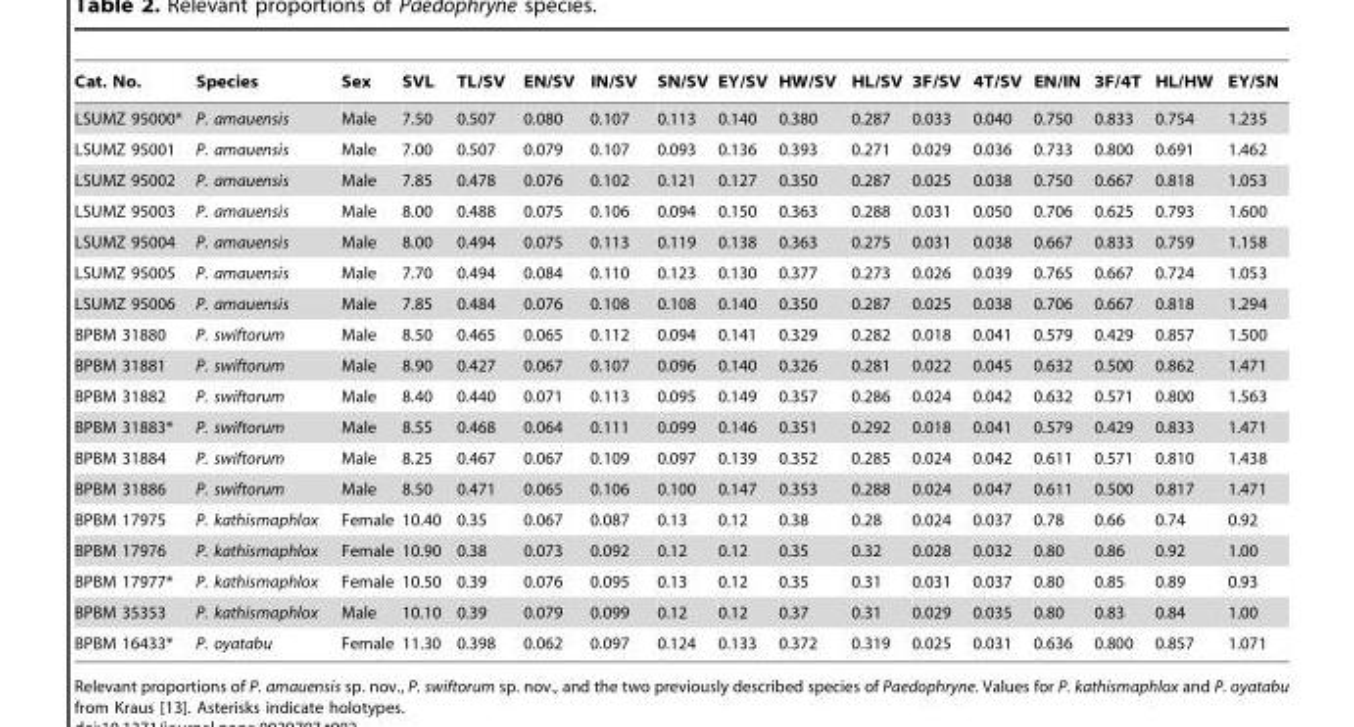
<table><thead><tr><td>Cat. No.</td><td>Species</td><td>Sex</td><td>SVL</td><td>TL/SV</td><td>EN/SV</td><td>IN/SV</td><td>SN/SV</td><td>EY/SV</td><td>HW/SV</td><td>HL/SV</td><td>3F/SV</td><td>4T/SV</td><td>EN/IN</td><td>3F/4T</td><td>HL/HW</td><td>EY/SN</td></tr></thead><tbody><tr><td>LSUMZ 95000*</td><td>P. amauensis</td><td>Male</td><td>7.50</td><td>0.507</td><td>0.080</td><td>0.107</td><td>0.113</td><td>0.140</td><td>0.380</td><td>0.287</td><td>0.033</td><td>0.040</td><td>0.750</td><td>0.833</td><td>0.754</td><td>1.235</td></tr><tr><td>LSUMZ 95001</td><td>P. amauensis</td><td>Male</td><td>7.00</td><td>0.507</td><td>0.079</td><td>0.107</td><td>0.093</td><td>0.136</td><td>0.393</td><td>0.271</td><td>0.029</td><td>0.036</td><td>0.733</td><td>0.800</td><td>0.691</td><td>1.462</td></tr><tr><td>LSUMZ 95002</td><td>P. amauensis</td><td>Male</td><td>7.85</td><td>0.478</td><td>0.076</td><td>0.102</td><td>0.121</td><td>0.127</td><td>0.350</td><td>0.287</td><td>0.025</td><td>0.038</td><td>0.750</td><td>0.667</td><td>0.818</td><td>1.053</td></tr><tr><td>LSUMZ 95003</td><td>P. amauensis</td><td>Male</td><td>8.00</td><td>0.488</td><td>0.075</td><td>0.106</td><td>0.094</td><td>0.150</td><td>0.363</td><td>0.288</td><td>0.031</td><td>0.050</td><td>0.706</td><td>0.625</td><td>0.793</td><td>1.600</td></tr><tr><td>LSUMZ 95004</td><td>P. amauensis</td><td>Male</td><td>8.00</td><td>0.494</td><td>0.075</td><td>0.113</td><td>0.119</td><td>0.138</td><td>0.363</td><td>0.275</td><td>0.031</td><td>0.038</td><td>0.667</td><td>0.833</td><td>0.759</td><td>1.158</td></tr><tr><td>LSUMZ 95005</td><td>P. amauensis</td><td>Male</td><td>7.70</td><td>0.494</td><td>0.084</td><td>0.110</td><td>0.123</td><td>0.130</td><td>0.377</td><td>0.273</td><td>0.026</td><td>0.039</td><td>0.765</td><td>0.667</td><td>0.724</td><td>1.053</td></tr><tr><td>LSUMZ 95006</td><td>P. amauensis</td><td>Male</td><td>7.85</td><td>0.484</td><td>0.076</td><td>0.108</td><td>0.108</td><td>0.140</td><td>0.350</td><td>0.287</td><td>0.025</td><td>0.038</td><td>0.706</td><td>0.667</td><td>0.818</td><td>1.294</td></tr><tr><td>BPBM 31880</td><td>P. swiftorum</td><td>Male</td><td>8.50</td><td>0.465</td><td>0.065</td><td>0.112</td><td>0.094</td><td>0.141</td><td>0.329</td><td>0.282</td><td>0.018</td><td>0.041</td><td>0.579</td><td>0.429</td><td>0.857</td><td>1.500</td></tr><tr><td>BPBM 31881</td><td>P. swiftorum</td><td>Male</td><td>8.90</td><td>0.427</td><td>0.067</td><td>0.107</td><td>0.096</td><td>0.140</td><td>0.326</td><td>0.281</td><td>0.022</td><td>0.045</td><td>0.632</td><td>0.500</td><td>0.862</td><td>1.471</td></tr><tr><td>BPBM 31882</td><td>P. swiftorum</td><td>Male</td><td>8.40</td><td>0.440</td><td>0.071</td><td>0.113</td><td>0.095</td><td>0.149</td><td>0.357</td><td>0.286</td><td>0.024</td><td>0.042</td><td>0.632</td><td>0.571</td><td>0.800</td><td>1.563</td></tr><tr><td>BPBM 31883*</td><td>P. swiftorum</td><td>Male</td><td>8.55</td><td>0.468</td><td>0.064</td><td>0.111</td><td>0.099</td><td>0.146</td><td>0.351</td><td>0.292</td><td>0.018</td><td>0.041</td><td>0.579</td><td>0.429</td><td>0.833</td><td>1.471</td></tr><tr><td>BPBM 31884</td><td>P. swiftorum</td><td>Male</td><td>8.25</td><td>0.467</td><td>0.067</td><td>0.109</td><td>0.097</td><td>0.139</td><td>0.352</td><td>0.285</td><td>0.024</td><td>0.042</td><td>0.611</td><td>0.571</td><td>0.810</td><td>1.438</td></tr><tr><td>BPBM 31886</td><td>P. swiftorum</td><td>Male</td><td>8.50</td><td>0.471</td><td>0.065</td><td>0.106</td><td>0.100</td><td>0.147</td><td>0.353</td><td>0.288</td><td>0.024</td><td>0.047</td><td>0.611</td><td>0.500</td><td>0.817</td><td>1.471</td></tr><tr><td>BPBM 17975</td><td>P. kathismaphlox</td><td>Female</td><td>10.40</td><td>0.35</td><td>0.067</td><td>0.087</td><td>0.13</td><td>0.12</td><td>0.38</td><td>0.28</td><td>0.024</td><td>0.037</td><td>0.78</td><td>0.66</td><td>0.74</td><td>0.92</td></tr><tr><td>BPBM 17976</td><td>P. kathismaphlox</td><td>Female</td><td>10.90</td><td>0.38</td><td>0.073</td><td>0.092</td><td>0.12</td><td>0.12</td><td>0.35</td><td>0.32</td><td>0.028</td><td>0.032</td><td>0.80</td><td>0.86</td><td>0.92</td><td>1.00</td></tr><tr><td>BPBM 17977*</td><td>P. kathismaphlox</td><td>Female</td><td>10.50</td><td>0.39</td><td>0.076</td><td>0.095</td><td>0.13</td><td>0.12</td><td>0.35</td><td>0.31</td><td>0.031</td><td>0.037</td><td>0.80</td><td>0.85</td><td>0.89</td><td>0.93</td></tr><tr><td>BPBM 35353</td><td>P. kathismaphlox</td><td>Male</td><td>10.10</td><td>0.39</td><td>0.079</td><td>0.099</td><td>0.12</td><td>0.12</td><td>0.37</td><td>0.31</td><td>0.029</td><td>0.035</td><td>0.80</td><td>0.83</td><td>0.84</td><td>1.00</td></tr><tr><td>BPBM 16433*</td><td>P. oyatabu</td><td>Female</td><td>11.30</td><td>0.398</td><td>0.062</td><td>0.097</td><td>0.124</td><td>0.133</td><td>0.372</td><td>0.319</td><td>0.025</td><td>0.031</td><td>0.636</td><td>0.800</td><td>0.857</td><td>1.071</td></tr></tbody></table>